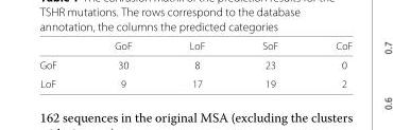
<table><thead><tr><td></td><td>GoF</td><td>LoF</td><td>SoF</td><td>CoF</td></tr></thead><tbody><tr><td>GoF</td><td>30</td><td>8</td><td>23</td><td>0</td></tr><tr><td>LoF</td><td>9</td><td>17</td><td>19</td><td>2</td></tr></tbody></table>